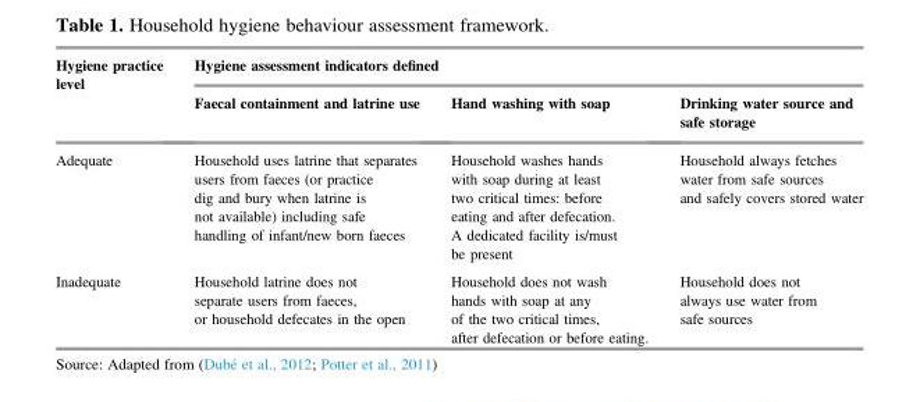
<table><thead><tr><td rowspan="2">Hygiene practice level</td><td colspan="3">Hygiene assessment indicators defined</td></tr><tr><td>Faecal containment and latrine use</td><td>Hand washing with soap</td><td>Drinking water source and safe storage</td></tr></thead><tbody><tr><td>Adequate</td><td>Household uses latrine that separates users from faeces (or practice dig and bury when latrine is not available) including safe handling of infant/new born faeces</td><td>Household washes hands with soap during at least two critical times: before eating and after defecation. A dedicated facility is/must be present</td><td>Household always fetches water from safe sources and safely covers stored water</td></tr><tr><td>Inadequate</td><td>Household latrine does not separate users from faeces, or household defecates in the open</td><td>Household does not wash hands with soap at any of the two critical times, after defecation or before eating.</td><td>Household does not always use water from safe sources</td></tr></tbody></table>